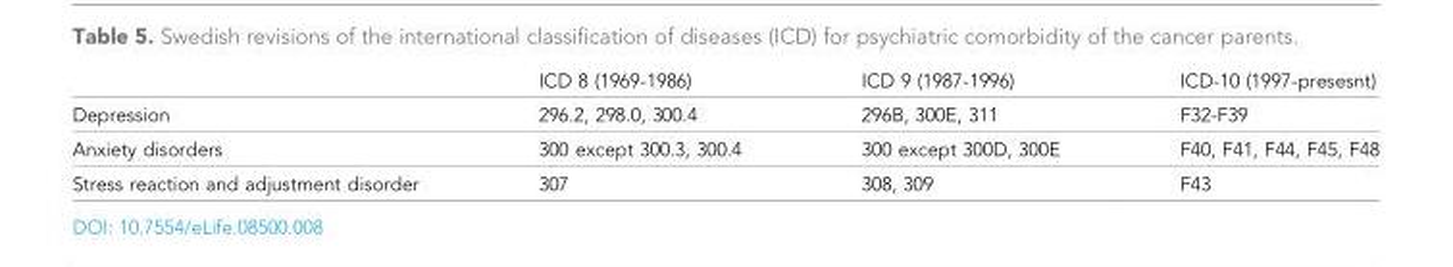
<table><thead><tr><td></td><td>ICD 8 (1969-1986)</td><td>ICD 9 (1987-1996)</td><td>ICD-10 (1997-presesnt)</td></tr></thead><tbody><tr><td>Depression</td><td>296.2, 298.0, 300.4</td><td>296B, 300E, 311</td><td>F32-F39</td></tr><tr><td>Anxiety disorders</td><td>300 except 300.3, 300.4</td><td>300 except 300D, 300E</td><td>F40, F41, F44, F45, F48</td></tr><tr><td>Stress reaction and adjustment disorder</td><td>307</td><td>308, 309</td><td>F43</td></tr></tbody></table>